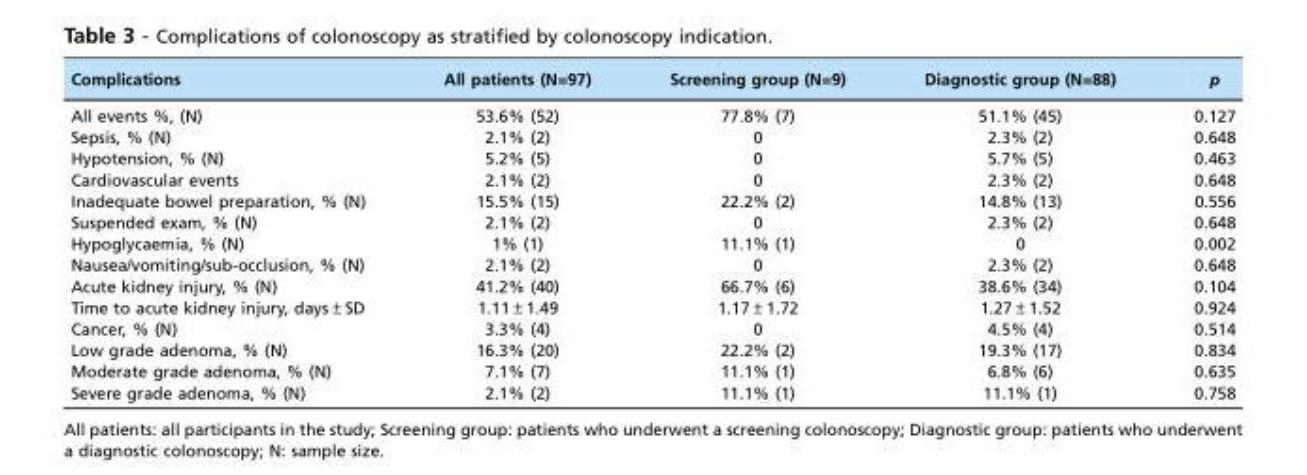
<table><thead><tr><td>Complications</td><td>All patients (N=97)</td><td>Screening group (N=9)</td><td>Diagnostic group (N=88)</td><td>p</td></tr></thead><tbody><tr><td>All events %, (N)</td><td>53.6% (52)</td><td>77.8% (7)</td><td>51.1% (45)</td><td>0.127</td></tr><tr><td>Sepsis, % (N)</td><td>2.1% (2)</td><td>0</td><td>2.3% (2)</td><td>0.648</td></tr><tr><td>Hypotension, % (N)</td><td>5.2% (5)</td><td>0</td><td>5.7% (5)</td><td>0.463</td></tr><tr><td>Cardiovascular events</td><td>2.1% (2)</td><td>0</td><td>2.3% (2)</td><td>0.648</td></tr><tr><td>Inadequate bowel preparation, % (N)</td><td>15.5% (15)</td><td>22.2% (2)</td><td>14.8% (13)</td><td>0.556</td></tr><tr><td>Suspended exam, % (N)</td><td>2.1% (2)</td><td>0</td><td>2.3% (2)</td><td>0.648</td></tr><tr><td>Hypoglycaemia, % (N)</td><td>1% (1)</td><td>11.1% (1)</td><td>0</td><td>0.002</td></tr><tr><td>Nausea/vomiting/sub-occlusion, % (N)</td><td>2.1% (2)</td><td>0</td><td>2.3% (2)</td><td>0.648</td></tr><tr><td>Acute kidney injury, % (N)</td><td>41.2% (40)</td><td>66.7% (6)</td><td>38.6% (34)</td><td>0.104</td></tr><tr><td>Time to acute kidney injury, days±SD</td><td>1.11±1.49</td><td>1.17±1.72</td><td>1.27±1.52</td><td>0.924</td></tr><tr><td>Cancer, % (N)</td><td>3.3% (4)</td><td>0</td><td>4.5% (4)</td><td>0.514</td></tr><tr><td>Low grade adenoma, % (N)</td><td>16.3% (20)</td><td>22.2% (2)</td><td>19.3% (17)</td><td>0.834</td></tr><tr><td>Moderate grade adenoma, % (N)</td><td>7.1% (7)</td><td>11.1% (1)</td><td>6.8% (6)</td><td>0.635</td></tr><tr><td>Severe grade adenoma, % (N)</td><td>2.1% (2)</td><td>11.1% (1)</td><td>11.1% (1)</td><td>0.758</td></tr></tbody></table>